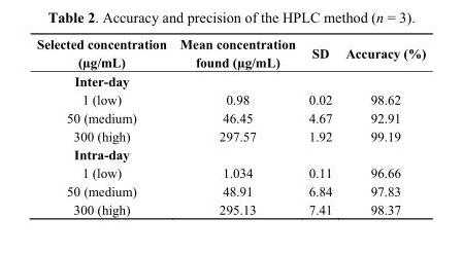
<table><thead><tr><td>Selected concentration (µg/mL)</td><td>Mean concentration found (µg/mL)</td><td>SD</td><td>Accuracy (%)</td></tr></thead><tbody><tr><td colspan="4">Inter-day</td></tr><tr><td>1 (low)</td><td>0.98</td><td>0.02</td><td>98.62</td></tr><tr><td>50 (medium)</td><td>46.45</td><td>4.67</td><td>92.91</td></tr><tr><td>300 (high)</td><td>297.57</td><td>1.92</td><td>99.19</td></tr><tr><td colspan="4">Intra-day</td></tr><tr><td>1 (low)</td><td>1.034</td><td>0.11</td><td>96.66</td></tr><tr><td>50 (medium)</td><td>48.91</td><td>6.84</td><td>97.83</td></tr><tr><td>300 (high)</td><td>295.13</td><td>7.41</td><td>98.37</td></tr></tbody></table>